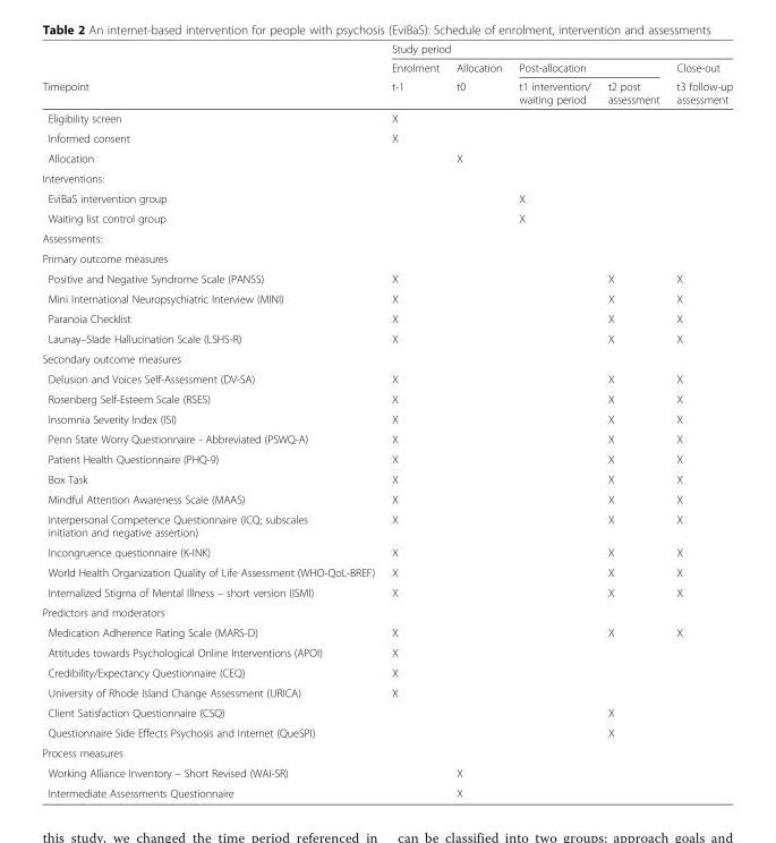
<table><thead><tr><td rowspan="3">Timepoint</td><td colspan="5">Study period</td></tr><tr><td rowspan="2">Enrolment t-1</td><td rowspan="2">Allocation t0</td><td colspan="2">Post-allocation</td><td rowspan="2">Close-out t3 follow-up assessment</td></tr><tr><td>t1 intervention/ waiting period</td><td>t2 post assessment</td></tr></thead><tbody><tr><td>Eligibility screen</td><td>X</td><td></td><td></td><td></td><td></td></tr><tr><td>Informed consent</td><td>X</td><td></td><td></td><td></td><td></td></tr><tr><td>Allocation</td><td></td><td>X</td><td></td><td></td><td></td></tr><tr><td colspan="6">Interventions:</td></tr><tr><td>EviBaS intervention group</td><td></td><td></td><td>X</td><td></td><td></td></tr><tr><td>Waiting list control group</td><td></td><td></td><td>X</td><td></td><td></td></tr><tr><td colspan="6">Assessments:</td></tr><tr><td colspan="6">Primary outcome measures</td></tr><tr><td>Positive and Negative Syndrome Scale (PANSS)</td><td>X</td><td></td><td></td><td>X</td><td>X</td></tr><tr><td>Mini International Neuropsychiatric Interview (MINI)</td><td>X</td><td></td><td></td><td>X</td><td>X</td></tr><tr><td>Paranoia Checklist</td><td>X</td><td></td><td></td><td>X</td><td>X</td></tr><tr><td>Launay–Slade Hallucination Scale (LSHS-R)</td><td>X</td><td></td><td></td><td>X</td><td>X</td></tr><tr><td colspan="6">Secondary outcome measures</td></tr><tr><td>Delusion and Voices Self-Assessment (DV-SA)</td><td>X</td><td></td><td></td><td>X</td><td>X</td></tr><tr><td>Rosenberg Self-Esteem Scale (RSES)</td><td>X</td><td></td><td></td><td>X</td><td>X</td></tr><tr><td>Insomnia Severity Index (ISI)</td><td>X</td><td></td><td></td><td>X</td><td>X</td></tr><tr><td>Penn State Worry Questionnaire - Abbreviated (PSWQ-A)</td><td>X</td><td></td><td></td><td>X</td><td>X</td></tr><tr><td>Patient Health Questionnaire (PHQ-9)</td><td>X</td><td></td><td></td><td>X</td><td>X</td></tr><tr><td>Box Task</td><td>X</td><td></td><td></td><td>X</td><td>X</td></tr><tr><td>Mindful Attention Awareness Scale (MAAS)</td><td>X</td><td></td><td></td><td>X</td><td>X</td></tr><tr><td>Interpersonal Competence Questionnaire (ICQ; subscales initiation and negative assertion)</td><td>X</td><td></td><td></td><td>X</td><td>X</td></tr><tr><td>Incongruence questionnaire (K-INK)</td><td>X</td><td></td><td></td><td>X</td><td>X</td></tr><tr><td>World Health Organization Quality of Life Assessment (WHO-QoL-BREF)</td><td>X</td><td></td><td></td><td>X</td><td>X</td></tr><tr><td>Internalized Stigma of Mental Illness – short version (ISMI)</td><td>X</td><td></td><td></td><td>X</td><td>X</td></tr><tr><td colspan="6">Predictors and moderators</td></tr><tr><td>Medication Adherence Rating Scale (MARS-D)</td><td>X</td><td></td><td></td><td>X</td><td>X</td></tr><tr><td>Attitudes towards Psychological Online Interventions (APOI)</td><td>X</td><td></td><td></td><td></td><td></td></tr><tr><td>Credibility/Expectancy Questionnaire (CEQ)</td><td>X</td><td></td><td></td><td></td><td></td></tr><tr><td>University of Rhode Island Change Assessment (URICA)</td><td>X</td><td></td><td></td><td></td><td></td></tr><tr><td>Client Satisfaction Questionnaire (CSQ)</td><td></td><td></td><td></td><td>X</td><td></td></tr><tr><td>Questionnaire Side Effects Psychosis and Internet (QueSPI)</td><td></td><td></td><td></td><td>X</td><td></td></tr><tr><td colspan="6">Process measures</td></tr><tr><td>Working Alliance Inventory – Short Revised (WAI-SR)</td><td></td><td>X</td><td></td><td></td><td></td></tr><tr><td>Intermediate Assessments Questionnaire</td><td></td><td>X</td><td></td><td></td><td></td></tr></tbody></table>